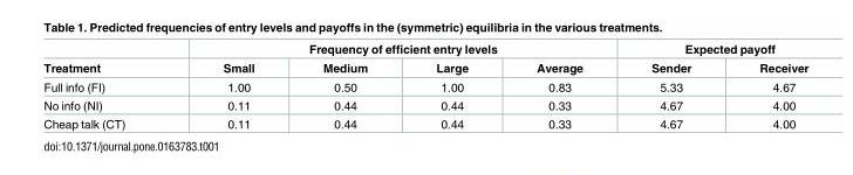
<table><thead><tr><td rowspan="2">Treatment</td><td colspan="4">Frequency of efficient entry levels</td><td colspan="2">Expected payoff</td></tr><tr><td>Small</td><td>Medium</td><td>Large</td><td>Average</td><td>Sender</td><td>Receiver</td></tr></thead><tbody><tr><td>Full info (FI)</td><td>1.00</td><td>0.50</td><td>1.00</td><td>0.83</td><td>5.33</td><td>4.67</td></tr><tr><td>No info (NI)</td><td>0.11</td><td>0.44</td><td>0.44</td><td>0.33</td><td>4.67</td><td>4.00</td></tr><tr><td>Cheap talk (CT)</td><td>0.11</td><td>0.44</td><td>0.44</td><td>0.33</td><td>4.67</td><td>4.00</td></tr></tbody></table>